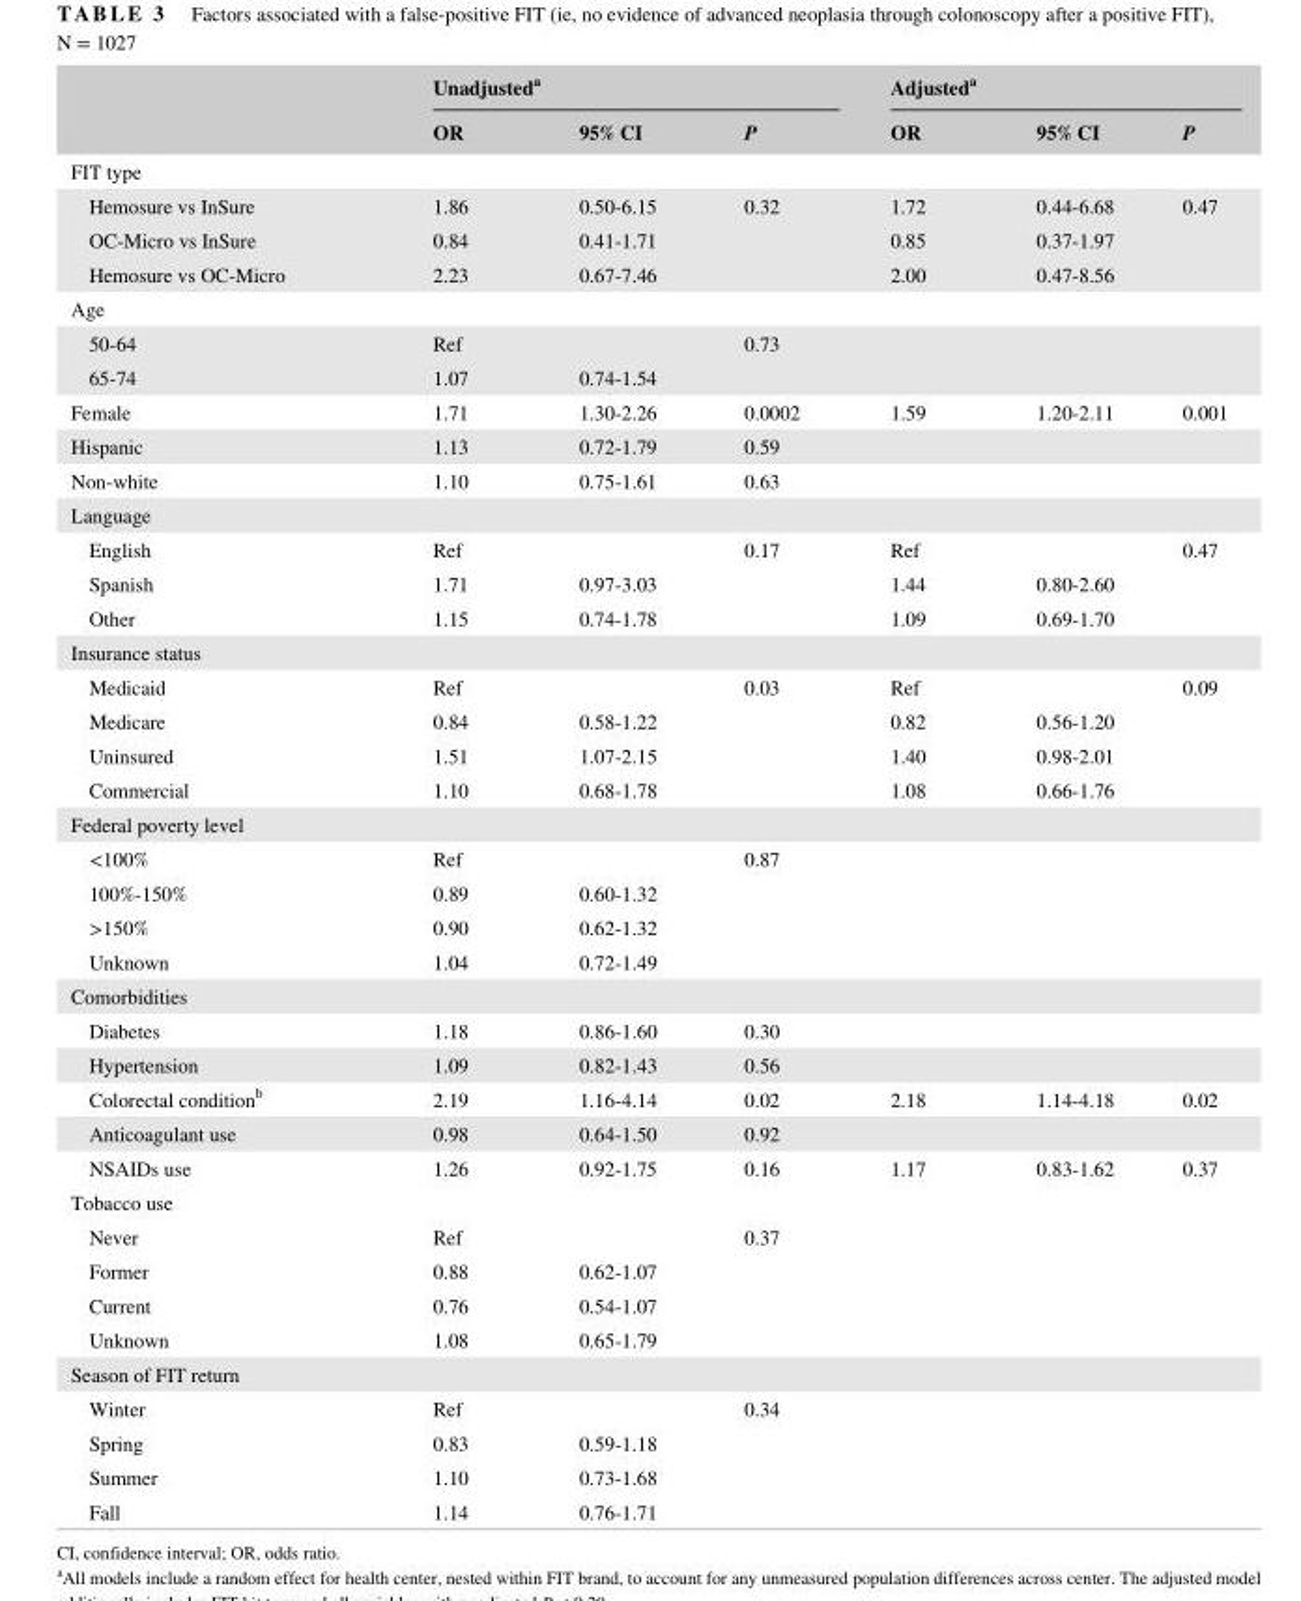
<table><thead><tr><td rowspan="2"></td><td colspan="3">Unadjusted<sup>a</sup></td><td colspan="3">Adjusted<sup>a</sup></td></tr><tr><td>OR</td><td>95% CI</td><td>P</td><td>OR</td><td>95% CI</td><td>P</td></tr></thead><tbody><tr><td colspan="7">FIT type</td></tr><tr><td>Hemosure vs InSure</td><td>1.86</td><td>0.50- 6.15</td><td rowspan="3">0.32</td><td>1.72</td><td>0.44- 6.68</td><td rowspan="3">0.47</td></tr><tr><td>OC- Micro vs InSure</td><td>0.84</td><td>0.41- 1.71</td><td>0.85</td><td>0.37- 1.97</td></tr><tr><td>Hemosure vs OC- Micro</td><td>2.23</td><td>0.67- 7.46</td><td>2.00</td><td>0.47- 8.56</td></tr><tr><td colspan="7">Age</td></tr><tr><td>50- 64</td><td>Ref</td><td></td><td rowspan="2">0.73</td><td></td><td></td><td></td></tr><tr><td>65- 74</td><td>1.07</td><td>0.74- 1.54</td><td></td><td></td><td></td></tr><tr><td>Female</td><td>1.71</td><td>1.30- 2.26</td><td>0.0002</td><td>1.59</td><td>1.20- 2.11</td><td>0.001</td></tr><tr><td>Hispanic</td><td>1.13</td><td>0.72- 1.79</td><td>0.59</td><td></td><td></td><td></td></tr><tr><td>Non- white</td><td>1.10</td><td>0.75- 1.61</td><td>0.63</td><td></td><td></td><td></td></tr><tr><td colspan="7">Language</td></tr><tr><td>English</td><td>Ref</td><td></td><td rowspan="3">0.17</td><td>Ref</td><td></td><td rowspan="3">0.47</td></tr><tr><td>Spanish</td><td>1.71</td><td>0.97- 3.03</td><td>1.44</td><td>0.80- 2.60</td></tr><tr><td>Other</td><td>1.15</td><td>0.74- 1.78</td><td>1.09</td><td>0.69- 1.70</td></tr><tr><td colspan="7">Insurance status</td></tr><tr><td>Medicaid</td><td>Ref</td><td></td><td rowspan="4">0.03</td><td>Ref</td><td></td><td rowspan="4">0.09</td></tr><tr><td>Medicare</td><td>0.84</td><td>0.58- 1.22</td><td>0.82</td><td>0.56- 1.20</td></tr><tr><td>Uninsured</td><td>1.51</td><td>1.07- 2.15</td><td>1.40</td><td>0.98- 2.01</td></tr><tr><td>Commercial</td><td>1.10</td><td>0.68- 1.78</td><td>1.08</td><td>0.66- 1.76</td></tr><tr><td colspan="7">Federal poverty level</td></tr><tr><td>&lt;100%</td><td>Ref</td><td></td><td rowspan="4">0.87</td><td></td><td></td><td rowspan="4"></td></tr><tr><td>100%- 150%</td><td>0.89</td><td>0.60- 1.32</td><td></td><td></td></tr><tr><td>&gt;150%</td><td>0.90</td><td>0.62- 1.32</td><td></td><td></td></tr><tr><td>Unknown</td><td>1.04</td><td>0.72- 1.49</td><td></td><td></td></tr><tr><td colspan="7">Comorbidities</td></tr><tr><td>Diabetes</td><td>1.18</td><td>0.86- 1.60</td><td>0.30</td><td></td><td></td><td></td></tr><tr><td>Hypertension</td><td>1.09</td><td>0.82- 1.43</td><td>0.56</td><td></td><td></td><td></td></tr><tr><td>Colorectal condition<sup>b</sup></td><td>2.19</td><td>1.16- 4.14</td><td>0.02</td><td>2.18</td><td>1.14- 4.18</td><td>0.02</td></tr><tr><td>Anticoagulant use</td><td>0.98</td><td>0.64- 1.50</td><td>0.92</td><td></td><td></td><td></td></tr><tr><td>NSAIDs use</td><td>1.26</td><td>0.92- 1.75</td><td>0.16</td><td>1.17</td><td>0.83- 1.62</td><td>0.37</td></tr><tr><td colspan="7">Tobacco use</td></tr><tr><td>Never</td><td>Ref</td><td></td><td rowspan="4">0.37</td><td></td><td></td><td></td></tr><tr><td>Former</td><td>0.88</td><td>0.62- 1.07</td><td></td><td></td><td></td></tr><tr><td>Current</td><td>0.76</td><td>0.54- 1.07</td><td></td><td></td><td></td></tr><tr><td>Unknown</td><td>1.08</td><td>0.65- 1.79</td><td></td><td></td><td></td></tr><tr><td colspan="7">Season of FIT return</td></tr><tr><td>Winter</td><td>Ref</td><td></td><td rowspan="4">0.34</td><td></td><td></td><td></td></tr><tr><td>Spring</td><td>0.83</td><td>0.59- 1.18</td><td></td><td></td><td></td></tr><tr><td>Summer</td><td>1.10</td><td>0.73- 1.68</td><td></td><td></td><td></td></tr><tr><td>Fall</td><td>1.14</td><td>0.76- 1.71</td><td></td><td></td><td></td></tr></tbody></table>